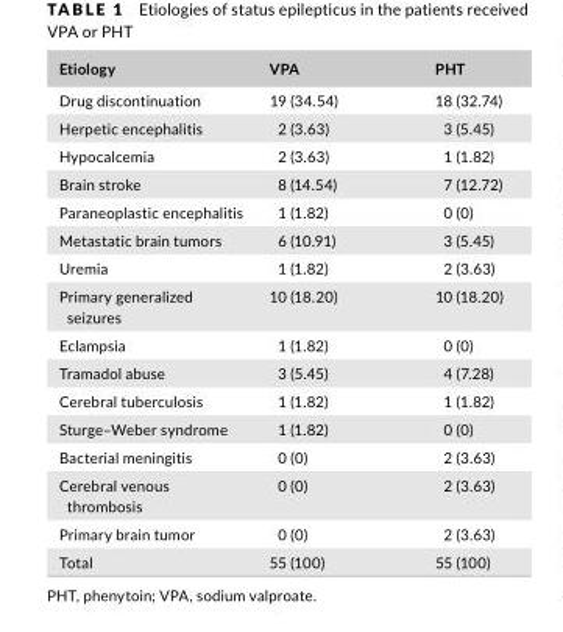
<table><thead><tr><td>Etiology</td><td>VPA</td><td>PHT</td></tr></thead><tbody><tr><td>Drug discontinuation</td><td>19 (34.54)</td><td>18 (32.74)</td></tr><tr><td>Herpetic encephalitis</td><td>2 (3.63)</td><td>3 (5.45)</td></tr><tr><td>Hypocalcemia</td><td>2 (3.63)</td><td>1 (1.82)</td></tr><tr><td>Brain stroke</td><td>8 (14.54)</td><td>7 (12.72)</td></tr><tr><td>Paraneoplastic encephalitis</td><td>1 (1.82)</td><td>0 (0)</td></tr><tr><td>Metastatic brain tumors</td><td>6 (10.91)</td><td>3 (5.45)</td></tr><tr><td>Uremia</td><td>1 (1.82)</td><td>2 (3.63)</td></tr><tr><td>Primary generalized seizures</td><td>10 (18.20)</td><td>10 (18.20)</td></tr><tr><td>Eclampsia</td><td>1 (1.82)</td><td>0 (0)</td></tr><tr><td>Tramadol abuse</td><td>3 (5.45)</td><td>4 (7.28)</td></tr><tr><td>Cerebral tuberculosis</td><td>1 (1.82)</td><td>1 (1.82)</td></tr><tr><td>Sturge–Weber syndrome</td><td>1 (1.82)</td><td>0 (0)</td></tr><tr><td>Bacterial meningitis</td><td>0 (0)</td><td>2 (3.63)</td></tr><tr><td>Cerebral venous thrombosis</td><td>0 (0)</td><td>2 (3.63)</td></tr><tr><td>Primary brain tumor</td><td>0 (0)</td><td>2 (3.63)</td></tr><tr><td>Total</td><td>55 (100)</td><td>55 (100)</td></tr></tbody></table>